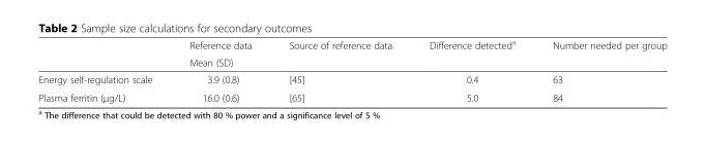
<table><thead><tr><td rowspan="2"></td><td rowspan="2">Reference data Mean (SD)</td><td rowspan="2">Source of reference data</td><td rowspan="2">Difference detected<sup>a</sup></td><td rowspan="2">Number needed per group</td></tr><tr></tr></thead><tbody><tr><td>Energy self-regulation scale</td><td>3.9 (0.8)</td><td>[45]</td><td>0.4</td><td>63</td></tr><tr><td>Plasma ferritin (μg/L)</td><td>16.0 (0.6)</td><td>[65]</td><td>5.0</td><td>84</td></tr></tbody></table>